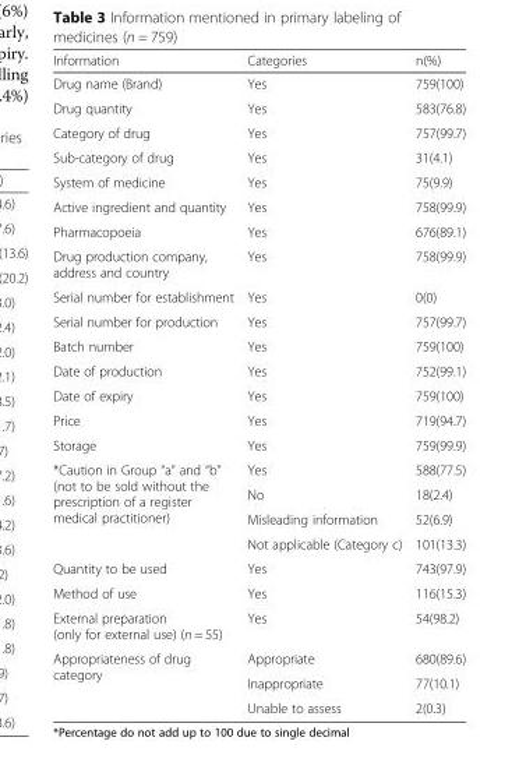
<table><thead><tr><td>Information</td><td>Categories</td><td>n(%)</td></tr></thead><tbody><tr><td>Drug name (Brand)</td><td>Yes</td><td>759(100)</td></tr><tr><td>Drug quantity</td><td>Yes</td><td>583(76.8)</td></tr><tr><td>Category of drug</td><td>Yes</td><td>757(99.7)</td></tr><tr><td>Sub-category of drug</td><td>Yes</td><td>31(4.1)</td></tr><tr><td>System of medicine</td><td>Yes</td><td>75(9.9)</td></tr><tr><td>Active ingredient and quantity</td><td>Yes</td><td>758(99.9)</td></tr><tr><td>Pharmacopoeia</td><td>Yes</td><td>676(89.1)</td></tr><tr><td>Drug production company, address and country</td><td>Yes</td><td>758(99.9)</td></tr><tr><td>Serial number for establishment</td><td>Yes</td><td>0(0)</td></tr><tr><td>Serial number for production</td><td>Yes</td><td>757(99.7)</td></tr><tr><td>Batch number</td><td>Yes</td><td>759(100)</td></tr><tr><td>Date of production</td><td>Yes</td><td>752(99.1)</td></tr><tr><td>Date of expiry</td><td>Yes</td><td>759(100)</td></tr><tr><td>Price</td><td>Yes</td><td>719(94.7)</td></tr><tr><td>Storage</td><td>Yes</td><td>759(99.9)</td></tr><tr><td rowspan="4">*Caution in Group “a” and “b” (not to be sold without the prescription of a register medical practitioner)</td><td>Yes</td><td>588(77.5)</td></tr><tr><td>No</td><td>18(2.4)</td></tr><tr><td>Misleading information</td><td>52(6.9)</td></tr><tr><td>Not applicable (Category c)</td><td>101(13.3)</td></tr><tr><td>Quantity to be used</td><td>Yes</td><td>743(97.9)</td></tr><tr><td>Method of use</td><td>Yes</td><td>116(15.3)</td></tr><tr><td>External preparation (only for external use) (n = 55)</td><td>Yes</td><td>54(98.2)</td></tr><tr><td rowspan="3">Appropriateness of drug category</td><td>Appropriate</td><td>680(89.6)</td></tr><tr><td>Inappropriate</td><td>77(10.1)</td></tr><tr><td>Unable to assess</td><td>2(0.3)</td></tr></tbody></table>